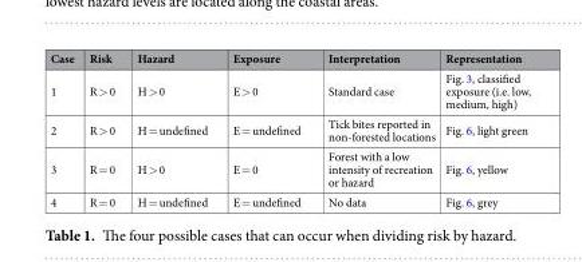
<table><thead><tr><td>Case</td><td>Risk</td><td>Hazard</td><td>Exposure</td><td>Interpretation</td><td>Representation</td></tr></thead><tbody><tr><td>1</td><td>R &gt; 0</td><td>H &gt; 0</td><td>E &gt; 0</td><td>Standard case</td><td>Fig. 3, classified exposure (i.e. low, medium, high)</td></tr><tr><td>2</td><td>R &gt; 0</td><td>H = undefined</td><td>E = undefined</td><td>Tick bites reported in non-forested locations</td><td>Fig. 6, light green</td></tr><tr><td>3</td><td>R = 0</td><td>H &gt; 0</td><td>E = 0</td><td>Forest with a low intensity of recreation or hazard</td><td>Fig. 6, yellow</td></tr><tr><td>4</td><td>R = 0</td><td>H = undefined</td><td>E = undefined</td><td>No data</td><td>Fig. 6, grey</td></tr></tbody></table>